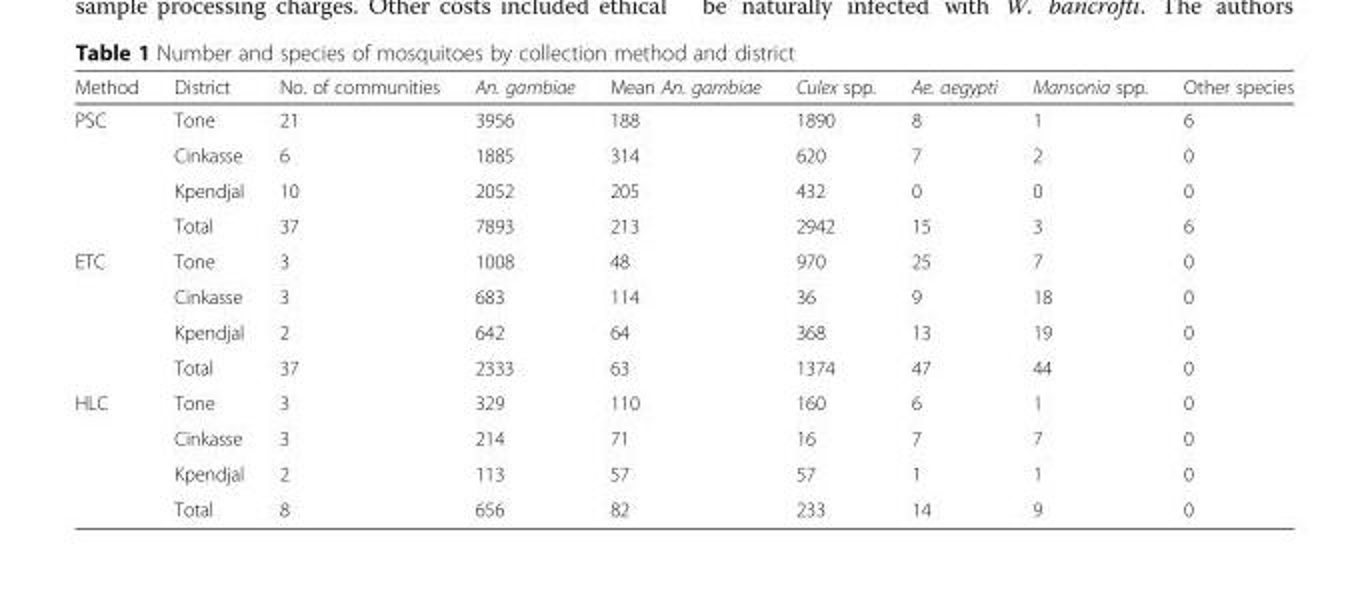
<table><thead><tr><td>Method</td><td>District</td><td>No. of communities</td><td>An. gambiae</td><td>Mean An. gambiae</td><td>Culex spp.</td><td>Ae. aegypti</td><td>Mansonia spp.</td><td>Other species</td></tr></thead><tbody><tr><td rowspan="4">PSC</td><td>Tone</td><td>21</td><td>3956</td><td>188</td><td>1890</td><td>8</td><td>1</td><td>6</td></tr><tr><td>Cinkasse</td><td>6</td><td>1885</td><td>314</td><td>620</td><td>7</td><td>2</td><td>0</td></tr><tr><td>Kpendjal</td><td>10</td><td>2052</td><td>205</td><td>432</td><td>0</td><td>0</td><td>0</td></tr><tr><td>Total</td><td>37</td><td>7893</td><td>213</td><td>2942</td><td>15</td><td>3</td><td>6</td></tr><tr><td rowspan="4">ETC</td><td>Tone</td><td>3</td><td>1008</td><td>48</td><td>970</td><td>25</td><td>7</td><td>0</td></tr><tr><td>Cinkasse</td><td>3</td><td>683</td><td>114</td><td>36</td><td>9</td><td>18</td><td>0</td></tr><tr><td>Kpendjal</td><td>2</td><td>642</td><td>64</td><td>368</td><td>13</td><td>19</td><td>0</td></tr><tr><td>Total</td><td>37</td><td>2333</td><td>63</td><td>1374</td><td>47</td><td>44</td><td>0</td></tr><tr><td rowspan="4">HLC</td><td>Tone</td><td>3</td><td>329</td><td>110</td><td>160</td><td>6</td><td>1</td><td>0</td></tr><tr><td>Cinkasse</td><td>3</td><td>214</td><td>71</td><td>16</td><td>7</td><td>7</td><td>0</td></tr><tr><td>Kpendjal</td><td>2</td><td>113</td><td>57</td><td>57</td><td>1</td><td>1</td><td>0</td></tr><tr><td>Total</td><td>8</td><td>656</td><td>82</td><td>233</td><td>14</td><td>9</td><td>0</td></tr></tbody></table>